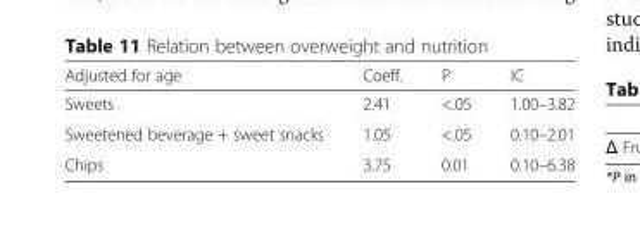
<table><thead><tr><td>Adjusted for age</td><td>Coeff.</td><td>P</td><td>IC</td></tr></thead><tbody><tr><td>Sweets</td><td>2.41</td><td>&lt;.05</td><td>1.00–3.82</td></tr><tr><td>Sweetened beverage + sweet snacks</td><td>1.05</td><td>&lt;.05</td><td>0.10–2.01</td></tr><tr><td>Chips</td><td>3.75</td><td>0.01</td><td>0.10–6.38</td></tr></tbody></table>